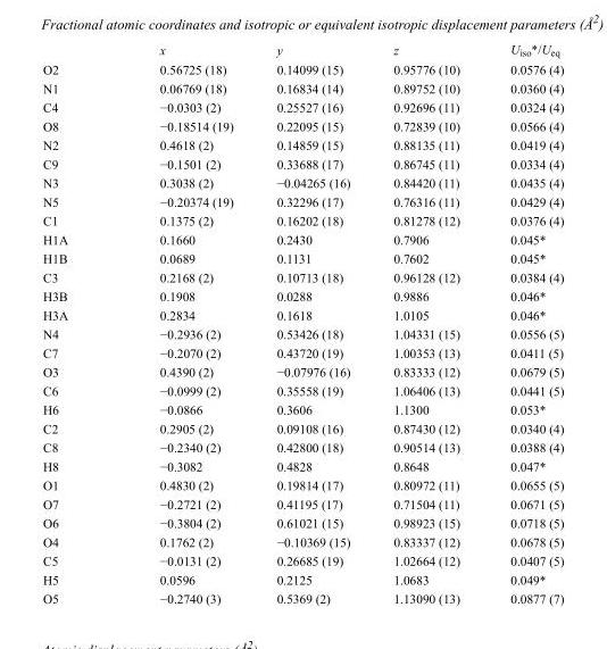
<table><thead><tr><td></td><td>x</td><td>y</td><td>z</td><td>U<sub>iso</sub>*/U<sub>eq</sub></td></tr></thead><tbody><tr><td>O2</td><td>0.56725 (18)</td><td>0.14099 (15)</td><td>0.95776 (10)</td><td>0.0576 (4)</td></tr><tr><td>N1</td><td>0.06769 (18)</td><td>0.16834 (14)</td><td>0.89752 (10)</td><td>0.0360 (4)</td></tr><tr><td>C4</td><td>−0.0303 (2)</td><td>0.25527 (16)</td><td>0.92696 (11)</td><td>0.0324 (4)</td></tr><tr><td>O8</td><td>−0.18514 (19)</td><td>0.22095 (15)</td><td>0.72839 (10)</td><td>0.0566 (4)</td></tr><tr><td>N2</td><td>0.4618 (2)</td><td>0.14859 (15)</td><td>0.88135 (11)</td><td>0.0419 (4)</td></tr><tr><td>C9</td><td>−0.1501 (2)</td><td>0.33688 (17)</td><td>0.86745 (11)</td><td>0.0334 (4)</td></tr><tr><td>N3</td><td>0.3038 (2)</td><td>−0.04265 (16)</td><td>0.84420 (11)</td><td>0.0435 (4)</td></tr><tr><td>N5</td><td>−0.20374 (19)</td><td>0.32296 (17)</td><td>0.76316 (11)</td><td>0.0429 (4)</td></tr><tr><td>C1</td><td>0.1375 (2)</td><td>0.16202 (18)</td><td>0.81278 (12)</td><td>0.0376 (4)</td></tr><tr><td>H1A</td><td>0.1660</td><td>0.2430</td><td>0.7906</td><td>0.045*</td></tr><tr><td>H1B</td><td>0.0689</td><td>0.1131</td><td>0.7602</td><td>0.045*</td></tr><tr><td>C3</td><td>0.2168 (2)</td><td>0.10713 (18)</td><td>0.96128 (12)</td><td>0.0384 (4)</td></tr><tr><td>H3B</td><td>0.1908</td><td>0.0288</td><td>0.9886</td><td>0.046*</td></tr><tr><td>H3A</td><td>0.2834</td><td>0.1618</td><td>1.0105</td><td>0.046*</td></tr><tr><td>N4</td><td>−0.2936 (2)</td><td>0.53426 (18)</td><td>1.04331 (15)</td><td>0.0556 (5)</td></tr><tr><td>C7</td><td>−0.2070 (2)</td><td>0.43720 (19)</td><td>1.00353 (13)</td><td>0.0411 (5)</td></tr><tr><td>O3</td><td>0.4390 (2)</td><td>−0.07976 (16)</td><td>0.83333 (12)</td><td>0.0679 (5)</td></tr><tr><td>C6</td><td>−0.0999 (2)</td><td>0.35558 (19)</td><td>1.06406 (13)</td><td>0.0441 (5)</td></tr><tr><td>H6</td><td>−0.0866</td><td>0.3606</td><td>1.1300</td><td>0.053*</td></tr><tr><td>C2</td><td>0.2905 (2)</td><td>0.09108 (16)</td><td>0.87430 (12)</td><td>0.0340 (4)</td></tr><tr><td>C8</td><td>−0.2340 (2)</td><td>0.42800 (18)</td><td>0.90514 (13)</td><td>0.0388 (4)</td></tr><tr><td>H8</td><td>−0.3082</td><td>0.4828</td><td>0.8648</td><td>0.047*</td></tr><tr><td>O1</td><td>0.4830 (2)</td><td>0.19814 (17)</td><td>0.80972 (11)</td><td>0.0655 (5)</td></tr><tr><td>O7</td><td>−0.2721 (2)</td><td>0.41195 (17)</td><td>0.71504 (11)</td><td>0.0671 (5)</td></tr><tr><td>O6</td><td>−0.3804 (2)</td><td>0.61021 (15)</td><td>0.98923 (15)</td><td>0.0718 (5)</td></tr><tr><td>O4</td><td>0.1762 (2)</td><td>−0.10369 (15)</td><td>0.83337 (12)</td><td>0.0678 (5)</td></tr><tr><td>C5</td><td>−0.0131 (2)</td><td>0.26685 (19)</td><td>1.02664 (12)</td><td>0.0407 (5)</td></tr><tr><td>H5</td><td>0.0596</td><td>0.2125</td><td>1.0683</td><td>0.049*</td></tr><tr><td>O5</td><td>−0.2740 (3)</td><td>0.5369 (2)</td><td>1.13090 (13)</td><td>0.0877 (7)</td></tr></tbody></table>